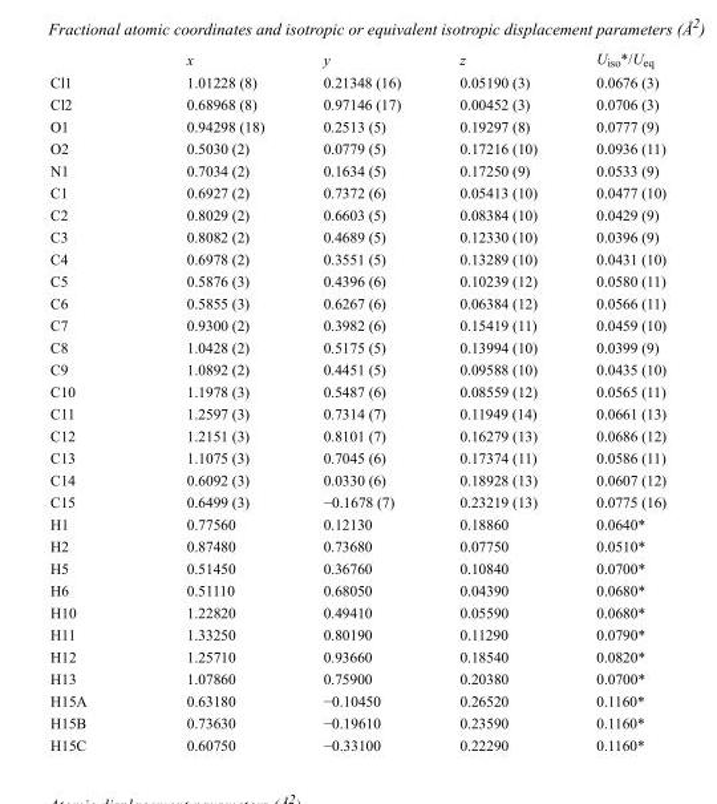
<table><thead><tr><td></td><td>x</td><td>y</td><td>z</td><td>U<sub>iso</sub>*/U<sub>eq</sub></td></tr></thead><tbody><tr><td>Cl1</td><td>1.01228 (8)</td><td>0.21348 (16)</td><td>0.05190 (3)</td><td>0.0676 (3)</td></tr><tr><td>Cl2</td><td>0.68968 (8)</td><td>0.97146 (17)</td><td>0.00452 (3)</td><td>0.0706 (3)</td></tr><tr><td>O1</td><td>0.94298 (18)</td><td>0.2513 (5)</td><td>0.19297 (8)</td><td>0.0777 (9)</td></tr><tr><td>O2</td><td>0.5030 (2)</td><td>0.0779 (5)</td><td>0.17216 (10)</td><td>0.0936 (11)</td></tr><tr><td>N1</td><td>0.7034 (2)</td><td>0.1634 (5)</td><td>0.17250 (9)</td><td>0.0533 (9)</td></tr><tr><td>C1</td><td>0.6927 (2)</td><td>0.7372 (6)</td><td>0.05413 (10)</td><td>0.0477 (10)</td></tr><tr><td>C2</td><td>0.8029 (2)</td><td>0.6603 (5)</td><td>0.08384 (10)</td><td>0.0429 (9)</td></tr><tr><td>C3</td><td>0.8082 (2)</td><td>0.4689 (5)</td><td>0.12330 (10)</td><td>0.0396 (9)</td></tr><tr><td>C4</td><td>0.6978 (2)</td><td>0.3551 (5)</td><td>0.13289 (10)</td><td>0.0431 (10)</td></tr><tr><td>C5</td><td>0.5876 (3)</td><td>0.4396 (6)</td><td>0.10239 (12)</td><td>0.0580 (11)</td></tr><tr><td>C6</td><td>0.5855 (3)</td><td>0.6267 (6)</td><td>0.06384 (12)</td><td>0.0566 (11)</td></tr><tr><td>C7</td><td>0.9300 (2)</td><td>0.3982 (6)</td><td>0.15419 (11)</td><td>0.0459 (10)</td></tr><tr><td>C8</td><td>1.0428 (2)</td><td>0.5175 (5)</td><td>0.13994 (10)</td><td>0.0399 (9)</td></tr><tr><td>C9</td><td>1.0892 (2)</td><td>0.4451 (5)</td><td>0.09588 (10)</td><td>0.0435 (10)</td></tr><tr><td>C10</td><td>1.1978 (3)</td><td>0.5487 (6)</td><td>0.08559 (12)</td><td>0.0565 (11)</td></tr><tr><td>C11</td><td>1.2597 (3)</td><td>0.7314 (7)</td><td>0.11949 (14)</td><td>0.0661 (13)</td></tr><tr><td>C12</td><td>1.2151 (3)</td><td>0.8101 (7)</td><td>0.16279 (13)</td><td>0.0686 (12)</td></tr><tr><td>C13</td><td>1.1075 (3)</td><td>0.7045 (6)</td><td>0.17374 (11)</td><td>0.0586 (11)</td></tr><tr><td>C14</td><td>0.6092 (3)</td><td>0.0330 (6)</td><td>0.18928 (13)</td><td>0.0607 (12)</td></tr><tr><td>C15</td><td>0.6499 (3)</td><td>−0.1678 (7)</td><td>0.23219 (13)</td><td>0.0775 (16)</td></tr><tr><td>H1</td><td>0.77560</td><td>0.12130</td><td>0.18860</td><td>0.0640*</td></tr><tr><td>H2</td><td>0.87480</td><td>0.73680</td><td>0.07750</td><td>0.0510*</td></tr><tr><td>H5</td><td>0.51450</td><td>0.36760</td><td>0.10840</td><td>0.0700*</td></tr><tr><td>H6</td><td>0.51110</td><td>0.68050</td><td>0.04390</td><td>0.0680*</td></tr><tr><td>H10</td><td>1.22820</td><td>0.49410</td><td>0.05590</td><td>0.0680*</td></tr><tr><td>H11</td><td>1.33250</td><td>0.80190</td><td>0.11290</td><td>0.0790*</td></tr><tr><td>H12</td><td>1.25710</td><td>0.93660</td><td>0.18540</td><td>0.0820*</td></tr><tr><td>H13</td><td>1.07860</td><td>0.75900</td><td>0.20380</td><td>0.0700*</td></tr><tr><td>H15A</td><td>0.63180</td><td>−0.10450</td><td>0.26520</td><td>0.1160*</td></tr><tr><td>H15B</td><td>0.73630</td><td>−0.19610</td><td>0.23590</td><td>0.1160*</td></tr><tr><td>H15C</td><td>0.60750</td><td>−0.33100</td><td>0.22290</td><td>0.1160*</td></tr></tbody></table>